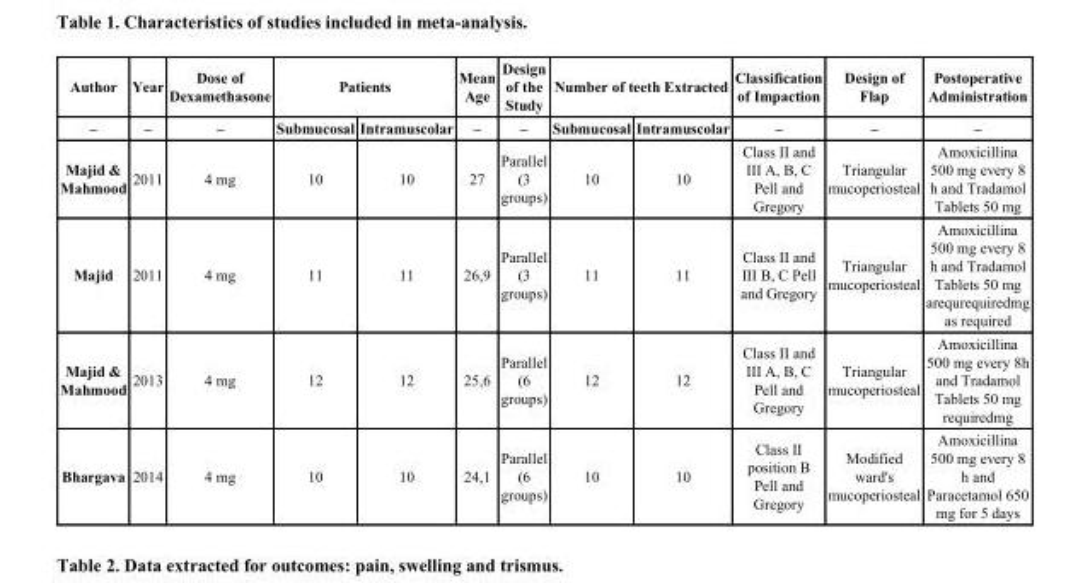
<table><thead><tr><td rowspan="2">Author –</td><td rowspan="2">Year –</td><td rowspan="2">Dose of Dexamethasone –</td><td colspan="2">Patients</td><td rowspan="2">Mean Age –</td><td rowspan="2">Design of the Study –</td><td colspan="2">Number of teeth Extracted</td><td rowspan="2">Classification of Impaction –</td><td rowspan="2">Design of Flap –</td><td rowspan="2">Postoperative Administration –</td></tr><tr><td>Submucosal</td><td>Intramuscolar</td><td>Submucosal</td><td>Intramuscolar</td></tr></thead><tbody><tr><td>Majid &amp; Mahmood</td><td>2011</td><td>4 mg</td><td>10</td><td>10</td><td>27</td><td>Parallel (3 groups)</td><td>10</td><td>10</td><td>Class II and III A, B, C Pell and Gregory</td><td>Triangular mucoperiosteal</td><td>Amoxicillina 500 mg every 8 h and Tradamol Tablets 50 mg</td></tr><tr><td>Majid</td><td>2011</td><td>4 mg</td><td>11</td><td>11</td><td>26,9</td><td>Parallel (3 groups)</td><td>11</td><td>11</td><td>Class II and III B, C Pell and Gregory</td><td>Triangular mucoperiosteal</td><td>Amoxicillina 500 mg every 8 h and Tradamol Tablets 50 mg arequrequiredmg as required</td></tr><tr><td>Majid &amp; Mahmood</td><td>2013</td><td>4 mg</td><td>12</td><td>12</td><td>25,6</td><td>Parallel (6 groups)</td><td>12</td><td>12</td><td>Class II and III A, B, C Pell and Gregory</td><td>Triangular mucoperiosteal</td><td>Amoxicillina 500 mg every 8h and Tradamol Tablets 50 mg requiredmg</td></tr><tr><td>Bhargava</td><td>2014</td><td>4 mg</td><td>10</td><td>10</td><td>24,1</td><td>Parallel (6 groups)</td><td>10</td><td>10</td><td>Class II position B Pell and Gregory</td><td>Modified ward&#x27;s mucoperiosteal</td><td>Amoxicillina 500 mg every 8 h and Paracetamol 650 mg for 5 days</td></tr></tbody></table>